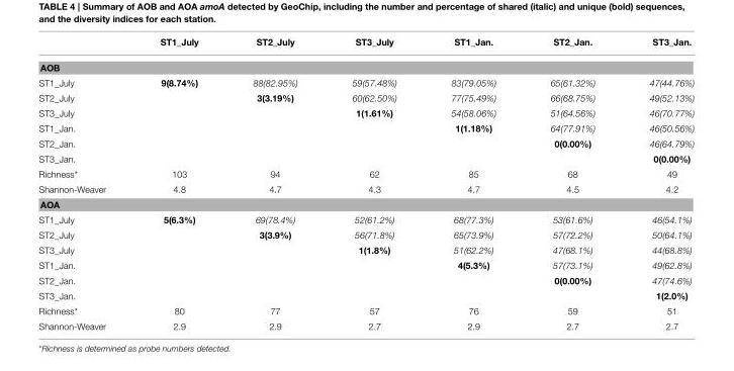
<table><thead><tr><td></td><td>ST1_July</td><td>ST2_July</td><td>ST3_July</td><td>ST1_Jan.</td><td>ST2_Jan.</td><td>ST3_Jan.</td></tr></thead><tbody><tr><td colspan="7">AOB</td></tr><tr><td>ST1_July</td><td>9(8.74%)</td><td>88(82.95%)</td><td>59(57.48%)</td><td>83(79.05%)</td><td>65(61.32%)</td><td>47(44.76%)</td></tr><tr><td>ST2_July</td><td></td><td>3(3.19%)</td><td>60(62.50%)</td><td>77(75.49%)</td><td>66(68.75%)</td><td>49(52.13%)</td></tr><tr><td>ST3_July</td><td></td><td></td><td>1(1.61%)</td><td>54(58.06%)</td><td>51(64.56%)</td><td>46(70.77%)</td></tr><tr><td>ST1_Jan.</td><td></td><td></td><td></td><td>1(1.18%)</td><td>64(77.91%)</td><td>46(50.56%)</td></tr><tr><td>ST2_Jan.</td><td></td><td></td><td></td><td></td><td>0(0.00%)</td><td>46(64.79%)</td></tr><tr><td>ST3_Jan.</td><td></td><td></td><td></td><td></td><td></td><td>0(0.00%)</td></tr><tr><td>Richness*</td><td>103</td><td>94</td><td>62</td><td>85</td><td>68</td><td>49</td></tr><tr><td>Shannon-Weaver</td><td>4.8</td><td>4.7</td><td>4.3</td><td>4.7</td><td>4.5</td><td>4.2</td></tr><tr><td colspan="7">AOA</td></tr><tr><td>ST1_July</td><td>5(6.3%)</td><td>69(78.4%)</td><td>52(61.2%)</td><td>68(77.3%)</td><td>53(61.6%)</td><td>46(54.1%)</td></tr><tr><td>ST2_July</td><td></td><td>3(3.9%)</td><td>56(71.8%)</td><td>65(73.9%)</td><td>57(72.2%)</td><td>50(64.1%)</td></tr><tr><td>ST3_July</td><td></td><td></td><td>1(1.8%)</td><td>51(62.2%)</td><td>47(68.1%)</td><td>44(68.8%)</td></tr><tr><td>ST1_Jan.</td><td></td><td></td><td></td><td>4(5.3%)</td><td>57(73.1%)</td><td>49(62.8%)</td></tr><tr><td>ST2_Jan.</td><td></td><td></td><td></td><td></td><td>0(0.00%)</td><td>47(74.6%)</td></tr><tr><td>ST3_Jan.</td><td></td><td></td><td></td><td></td><td></td><td>1(2.0%)</td></tr><tr><td>Richness*</td><td>80</td><td>77</td><td>57</td><td>76</td><td>59</td><td>51</td></tr><tr><td>Shannon-Weaver</td><td>2.9</td><td>2.9</td><td>2.7</td><td>2.9</td><td>2.7</td><td>2.7</td></tr></tbody></table>